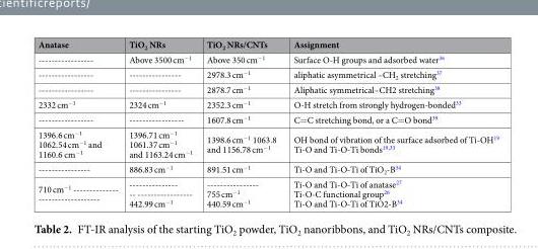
<table><thead><tr><td>Anatase</td><td>TiO<sub>2</sub> NRs</td><td>TiO<sub>2</sub> NRs/CNTs</td><td>Assignment</td></tr></thead><tbody><tr><td>-----------------</td><td>Above 3500 cm<sup>−1</sup></td><td>Above 350 cm<sup>−1</sup></td><td>Surface O-H groups and adsorbed water<sup>36</sup></td></tr><tr><td>-----------------</td><td>----------------</td><td>2978.3 cm<sup>−1</sup></td><td>aliphatic asymmetrical –CH<sub>2</sub> stretching<sup>37</sup></td></tr><tr><td>-----------------</td><td>----------------</td><td>2878.7 cm<sup>−1</sup></td><td>Aliphatic symmetrical–CH2 stretching<sup>38</sup></td></tr><tr><td>2332 cm<sup>−1</sup></td><td>2324 cm<sup>−1</sup></td><td>2352.3 cm<sup>−1</sup></td><td>O-H stretch from strongly hydrogen-bonded<sup>33</sup></td></tr><tr><td>-----------------</td><td>-----------------</td><td>1607.8 cm<sup>−1</sup></td><td>C=C stretching bond, or a C=O bond<sup>39</sup></td></tr><tr><td>1396.6 cm<sup>−1</sup> 1062.54 cm<sup>−1</sup> and 1160.6 cm<sup>−1</sup></td><td>1396.71 cm<sup>−1</sup> 1061.37 cm<sup>−1</sup> and 1163.24 cm<sup>−1</sup></td><td>1398.6 cm<sup>−1</sup> 1063.8 and 1156.78 cm<sup>−1</sup></td><td>OH bond of vibration of the surface adsorbed of Ti-OH<sup>19</sup> Ti-O and Ti-O-Ti bonds<sup>19,33</sup></td></tr><tr><td>----------------</td><td>886.83 cm<sup>−1</sup></td><td>891.51 cm<sup>−1</sup></td><td>Ti-O and Ti-O-Ti of TiO<sub>2</sub>-B<sup>34</sup></td></tr><tr><td>710 cm<sup>−1</sup> -------------- -------------------</td><td>--------------- -- ----------------- 442.99 cm<sup>−1</sup></td><td>---------------- 755 cm<sup>−1</sup> 440.59 cm<sup>−1</sup></td><td>Ti-O and Ti-O-Ti of anatase<sup>27</sup> Ti-O-C functional group<sup>26</sup> Ti-O and Ti-O-Ti of TiO2-B<sup>34</sup></td></tr></tbody></table>